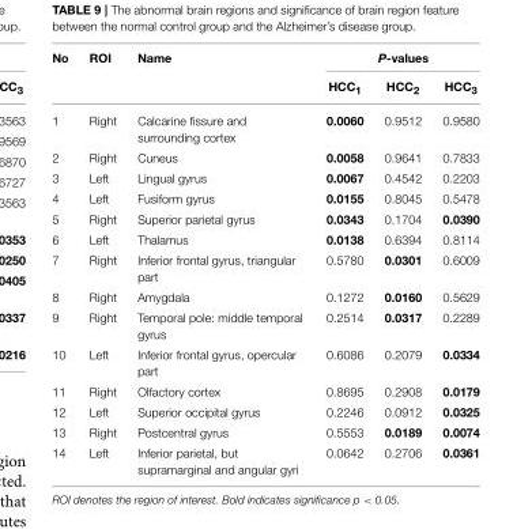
<table><thead><tr><td rowspan="2">No</td><td rowspan="2">ROI</td><td rowspan="2">Name</td><td colspan="3">P-values</td></tr><tr><td>HCC<sub>1</sub></td><td>HCC<sub>2</sub></td><td>HCC<sub>3</sub></td></tr></thead><tbody><tr><td>1</td><td>Right</td><td>Calcarine fissure and surrounding cortex</td><td>0.0060</td><td>0.9512</td><td>0.9580</td></tr><tr><td>2</td><td>Right</td><td>Cuneus</td><td>0.0058</td><td>0.9641</td><td>0.7833</td></tr><tr><td>3</td><td>Left</td><td>Lingual gyrus</td><td>0.0067</td><td>0.4542</td><td>0.2203</td></tr><tr><td>4</td><td>Left</td><td>Fusiform gyrus</td><td>0.0155</td><td>0.8045</td><td>0.5478</td></tr><tr><td>5</td><td>Right</td><td>Superior parietal gyrus</td><td>0.0343</td><td>0.1704</td><td>0.0390</td></tr><tr><td>6</td><td>Left</td><td>Thalamus</td><td>0.0138</td><td>0.6394</td><td>0.8114</td></tr><tr><td>7</td><td>Right</td><td>Inferior frontal gyrus, triangular part</td><td>0.5780</td><td>0.0301</td><td>0.6009</td></tr><tr><td>8</td><td>Right</td><td>Amygdala</td><td>0.1272</td><td>0.0160</td><td>0.5629</td></tr><tr><td>9</td><td>Right</td><td>Temporal pole: middle temporal gyrus</td><td>0.2514</td><td>0.0317</td><td>0.2289</td></tr><tr><td>10</td><td>Left</td><td>Inferior frontal gyrus, opercular part</td><td>0.6086</td><td>0.2079</td><td>0.0334</td></tr><tr><td>11</td><td>Right</td><td>Olfactory cortex</td><td>0.8695</td><td>0.2908</td><td>0.0179</td></tr><tr><td>12</td><td>Left</td><td>Superior occipital gyrus</td><td>0.2246</td><td>0.0912</td><td>0.0325</td></tr><tr><td>13</td><td>Right</td><td>Postcentral gyrus</td><td>0.5553</td><td>0.0189</td><td>0.0074</td></tr><tr><td>14</td><td>Left</td><td>Inferior parietal, but supramarginal and angular gyri</td><td>0.0642</td><td>0.2706</td><td>0.0361</td></tr></tbody></table>